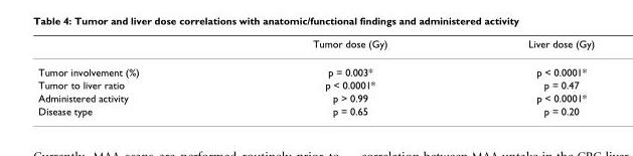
<table><thead><tr><td></td><td>Tumor dose (Gy)</td><td>Liver dose (Gy)</td></tr></thead><tbody><tr><td>Tumor involvement (%)</td><td>p = 0.003*</td><td>p &lt; 0.0001*</td></tr><tr><td>Tumor to liver ratio</td><td>p &lt; 0.0001*</td><td>p = 0.47</td></tr><tr><td>Administered activity</td><td>p &gt; 0.99</td><td>p &lt; 0.0001*</td></tr><tr><td>Disease type</td><td>p = 0.65</td><td>p = 0.20</td></tr></tbody></table>